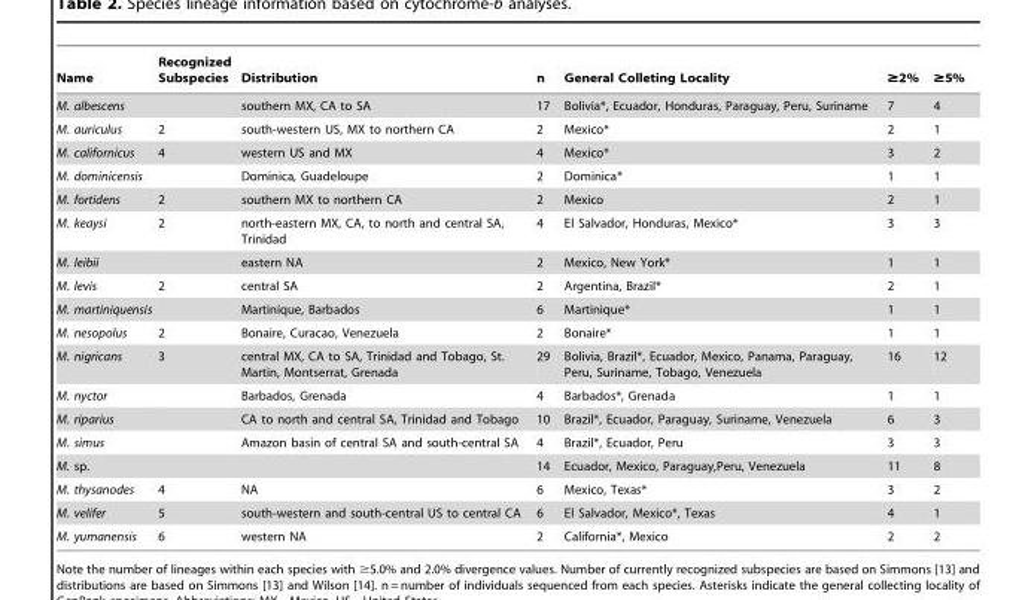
<table><thead><tr><td>Name</td><td>Recognized Subspecies</td><td>Distribution</td><td>n</td><td>General Colleting Locality</td><td>≥2%</td><td>≥5%</td></tr></thead><tbody><tr><td>M. albescens</td><td></td><td>southern MX, CA to SA</td><td>17</td><td>Bolivia*, Ecuador, Honduras, Paraguay, Peru, Suriname</td><td>7</td><td>4</td></tr><tr><td>M. auriculus</td><td>2</td><td>south-western US, MX to northern CA</td><td>2</td><td>Mexico*</td><td>2</td><td>1</td></tr><tr><td>M. californicus</td><td>4</td><td>western US and MX</td><td>4</td><td>Mexico*</td><td>3</td><td>2</td></tr><tr><td>M. dominicensis</td><td></td><td>Dominica, Guadeloupe</td><td>2</td><td>Dominica*</td><td>1</td><td>1</td></tr><tr><td>M. fortidens</td><td>2</td><td>southern MX to northern CA</td><td>2</td><td>Mexico</td><td>2</td><td>1</td></tr><tr><td>M. keaysi</td><td>2</td><td>north-eastern MX, CA, to north and central SA, Trinidad</td><td>4</td><td>El Salvador, Honduras, Mexico*</td><td>3</td><td>3</td></tr><tr><td>M. leibii</td><td></td><td>eastern NA</td><td>2</td><td>Mexico, New York*</td><td>1</td><td>1</td></tr><tr><td>M. levis</td><td>2</td><td>central SA</td><td>2</td><td>Argentina, Brazil*</td><td>2</td><td>1</td></tr><tr><td>M. martiniquensis</td><td></td><td>Martinique, Barbados</td><td>6</td><td>Martinique*</td><td>1</td><td>1</td></tr><tr><td>M. nesopolus</td><td>2</td><td>Bonaire, Curacao, Venezuela</td><td>2</td><td>Bonaire*</td><td>1</td><td>1</td></tr><tr><td>M. nigricans</td><td>3</td><td>central MX, CA to SA, Trinidad and Tobago, St. Martin, Montserrat, Grenada</td><td>29</td><td>Bolivia, Brazil*, Ecuador, Mexico, Panama, Paraguay, Peru, Suriname, Tobago, Venezuela</td><td>16</td><td>12</td></tr><tr><td>M. nyctor</td><td></td><td>Barbados, Grenada</td><td>4</td><td>Barbados*, Grenada</td><td>1</td><td>1</td></tr><tr><td>M. riparius</td><td></td><td>CA to north and central SA, Trinidad and Tobago</td><td>10</td><td>Brazil*, Ecuador, Paraguay, Suriname, Venezuela</td><td>6</td><td>3</td></tr><tr><td>M. simus</td><td></td><td>Amazon basin of central SA and south-central SA</td><td>4</td><td>Brazil*, Ecuador, Peru</td><td>3</td><td>3</td></tr><tr><td>M. sp.</td><td></td><td></td><td>14</td><td>Ecuador, Mexico, Paraguay,Peru, Venezuela</td><td>11</td><td>8</td></tr><tr><td>M. thysanodes</td><td>4</td><td>NA</td><td>6</td><td>Mexico, Texas*</td><td>3</td><td>2</td></tr><tr><td>M. velifer</td><td>5</td><td>south-western and south-central US to central CA</td><td>6</td><td>El Salvador, Mexico*, Texas</td><td>4</td><td>1</td></tr><tr><td>M. yumanensis</td><td>6</td><td>western NA</td><td>2</td><td>California*, Mexico</td><td>2</td><td>2</td></tr></tbody></table>